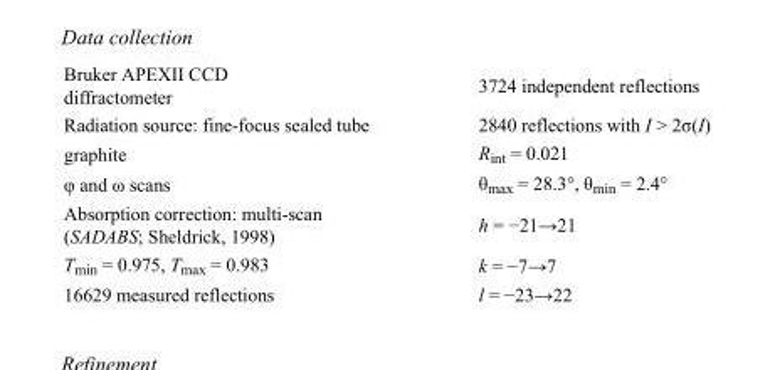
<table><tbody><tr><td>Bruker APEXII CCD diffractometer</td><td>3724 independent reflections</td></tr><tr><td>Radiation source: fine-focus sealed tube</td><td>2840 reflections with I &gt; 2σ(I)</td></tr><tr><td>graphite</td><td>R<sub>int</sub> = 0.021</td></tr><tr><td>φ and ω scans</td><td>θ<sub>max</sub> = 28.3°, θ<sub>min</sub> = 2.4°</td></tr><tr><td>Absorption correction: multi-scan (SADABS; Sheldrick, 1998)</td><td>h = −21→21</td></tr><tr><td>T<sub>min</sub> = 0.975, T<sub>max</sub> = 0.983</td><td>k = −7→7</td></tr><tr><td>16629 measured reflections</td><td>l = −23→22</td></tr></tbody></table>